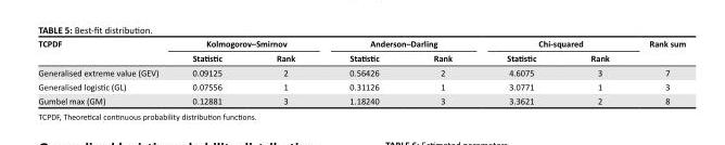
<table><thead><tr><td rowspan="2">TCPDF</td><td colspan="2">Kolmogorov–Smirnov</td><td colspan="2">Anderson–Darling</td><td colspan="2">Chi-squared</td><td rowspan="2">Rank sum</td></tr><tr><td>Statistic</td><td>Rank</td><td>Statistic</td><td>Rank</td><td>Statistic</td><td>Rank</td></tr></thead><tbody><tr><td>Generalised extreme value (GEV)</td><td>0.09125</td><td>2</td><td>0.56426</td><td>2</td><td>4.6075</td><td>3</td><td>7</td></tr><tr><td>Generalised logistic (GL)</td><td>0.07556</td><td>1</td><td>0.31126</td><td>1</td><td>3.0771</td><td>1</td><td>3</td></tr><tr><td>Gumbel max (GM)</td><td>0.12881</td><td>3</td><td>1.18240</td><td>3</td><td>3.3621</td><td>2</td><td>8</td></tr></tbody></table>